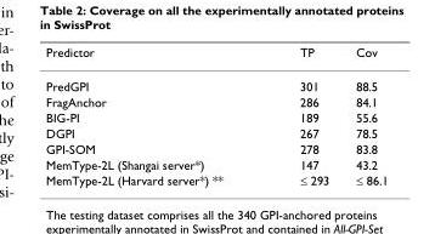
<table><thead><tr><td>Predictor</td><td>TP</td><td>Cov</td></tr></thead><tbody><tr><td>PredGPI</td><td>301</td><td>88.5</td></tr><tr><td>FragAnchor</td><td>286</td><td>84.1</td></tr><tr><td>BIG-PI</td><td>189</td><td>55.6</td></tr><tr><td>DGPI</td><td>267</td><td>78.5</td></tr><tr><td>GPI-SOM</td><td>278</td><td>83.8</td></tr><tr><td>MemType-2L (Shangai server*)</td><td>147</td><td>43.2</td></tr><tr><td>MemType-2L (Harvard server*) **</td><td>≤ 293</td><td>≤ 86.1</td></tr></tbody></table>